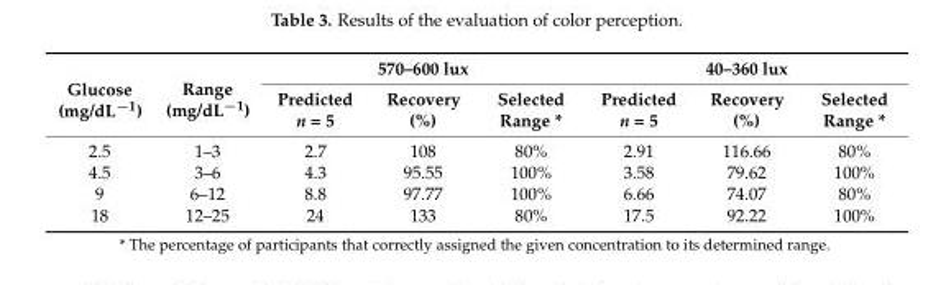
<table><thead><tr><td rowspan="2">Glucose (mg/dL<sup>−1</sup>)</td><td rowspan="2">Range (mg/dL<sup>−1</sup>)</td><td colspan="3">570–600 lux</td><td colspan="3">40–360 lux</td></tr><tr><td>Predicted n = 5</td><td>Recovery (%)</td><td>Selected Range *</td><td>Predicted n = 5</td><td>Recovery (%)</td><td>Selected Range *</td></tr></thead><tbody><tr><td>2.5</td><td>1–3</td><td>2.7</td><td>108</td><td>80%</td><td>2.91</td><td>116.66</td><td>80%</td></tr><tr><td>4.5</td><td>3–6</td><td>4.3</td><td>95.55</td><td>100%</td><td>3.58</td><td>79.62</td><td>100%</td></tr><tr><td>9</td><td>6–12</td><td>8.8</td><td>97.77</td><td>100%</td><td>6.66</td><td>74.07</td><td>80%</td></tr><tr><td>18</td><td>12–25</td><td>24</td><td>133</td><td>80%</td><td>17.5</td><td>92.22</td><td>100%</td></tr></tbody></table>